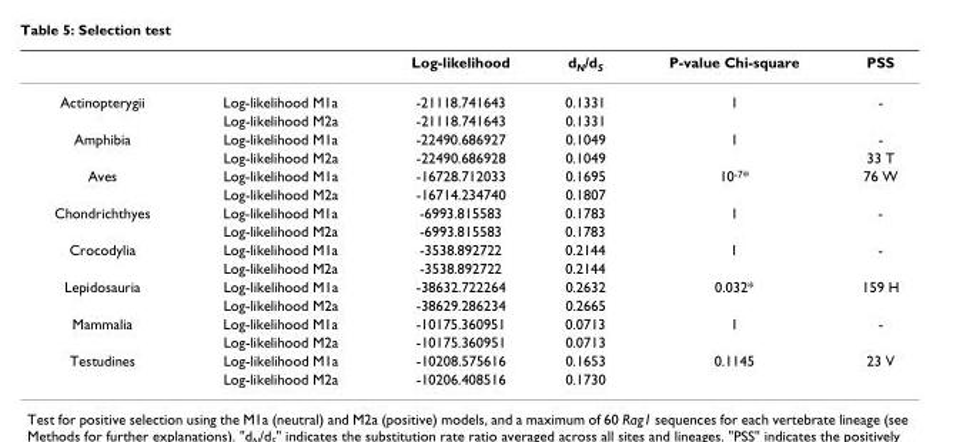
<table><thead><tr><td></td><td></td><td>Log-likelihood</td><td>d<sub>N</sub>/d<sub>S</sub></td><td>P-value Chi-square</td><td>PSS</td></tr></thead><tbody><tr><td rowspan="2">Actinopterygii</td><td>Log-likelihood M1a</td><td>-21118.741643</td><td>0.1331</td><td>1</td><td>-</td></tr><tr><td>Log-likelihood M2a</td><td>-21118.741643</td><td>0.1331</td><td></td><td></td></tr><tr><td rowspan="2">Amphibia</td><td>Log-likelihood M1a</td><td>-22490.686927</td><td>0.1049</td><td>1</td><td>-</td></tr><tr><td>Log-likelihood M2a</td><td>-22490.686928</td><td>0.1049</td><td></td><td>33 T</td></tr><tr><td rowspan="2">Aves</td><td>Log-likelihood M1a</td><td>-16728.712033</td><td>0.1695</td><td>10<sup>-7</sup>*</td><td>76 W</td></tr><tr><td>Log-likelihood M2a</td><td>-16714.234740</td><td>0.1807</td><td></td><td></td></tr><tr><td rowspan="2">Chondrichthyes</td><td>Log-likelihood M1a</td><td>-6993.815583</td><td>0.1783</td><td>1</td><td>-</td></tr><tr><td>Log-likelihood M2a</td><td>-6993.815583</td><td>0.1783</td><td></td><td></td></tr><tr><td rowspan="2">Crocodylia</td><td>Log-likelihood M1a</td><td>-3538.892722</td><td>0.2144</td><td>1</td><td>-</td></tr><tr><td>Log-likelihood M2a</td><td>-3538.892722</td><td>0.2144</td><td></td><td></td></tr><tr><td rowspan="2">Lepidosauria</td><td>Log-likelihood M1a</td><td>-38632.722264</td><td>0.2632</td><td>0.032*</td><td>159 H</td></tr><tr><td>Log-likelihood M2a</td><td>-38629.286234</td><td>0.2665</td><td></td><td></td></tr><tr><td rowspan="2">Mammalia</td><td>Log-likelihood M1a</td><td>-10175.360951</td><td>0.0713</td><td>1</td><td>-</td></tr><tr><td>Log-likelihood M2a</td><td>-10175.360951</td><td>0.0713</td><td></td><td></td></tr><tr><td rowspan="2">Testudines</td><td>Log-likelihood M1a</td><td>-10208.575616</td><td>0.1653</td><td>0.1145</td><td>23 V</td></tr><tr><td>Log-likelihood M2a</td><td>-10206.408516</td><td>0.1730</td><td></td><td></td></tr></tbody></table>